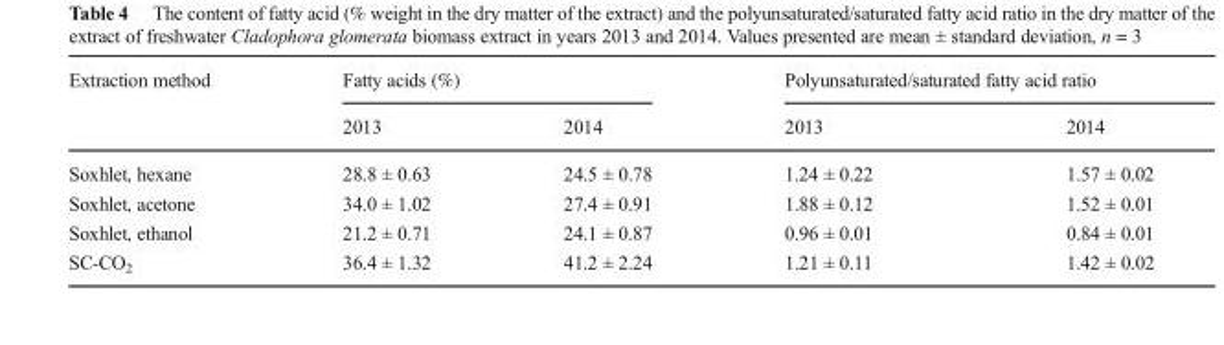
<table><thead><tr><td rowspan="2">Extraction method</td><td colspan="2">Fatty acids (%)</td><td colspan="2">Polyunsaturated/saturated fatty acid ratio</td></tr><tr><td>2013</td><td>2014</td><td>2013</td><td>2014</td></tr></thead><tbody><tr><td>Soxhlet, hexane</td><td>28.8 ± 0.63</td><td>24.5 ± 0.78</td><td>1.24 ± 0.22</td><td>1.57 ± 0.02</td></tr><tr><td>Soxhlet, acetone</td><td>34.0 ± 1.02</td><td>27.4 ± 0.91</td><td>1.88 ± 0.12</td><td>1.52 ± 0.01</td></tr><tr><td>Soxhlet, ethanol</td><td>21.2 ± 0.71</td><td>24.1 ± 0.87</td><td>0.96 ± 0.01</td><td>0.84 ± 0.01</td></tr><tr><td>SC-CO<sub>2</sub></td><td>36.4 ± 1.32</td><td>41.2 ± 2.24</td><td>1.21 ± 0.11</td><td>1.42 ± 0.02</td></tr></tbody></table>